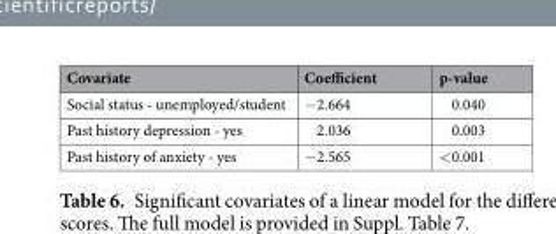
<table><thead><tr><td>Covariate</td><td>Coefficient</td><td>p-value</td></tr></thead><tbody><tr><td>Social status - unemployed/student</td><td>−2.664</td><td>0.040</td></tr><tr><td>Past history depression - yes</td><td>2.036</td><td>0.003</td></tr><tr><td>Past history of anxiety - yes</td><td>−2.565</td><td>&lt;0.001</td></tr></tbody></table>